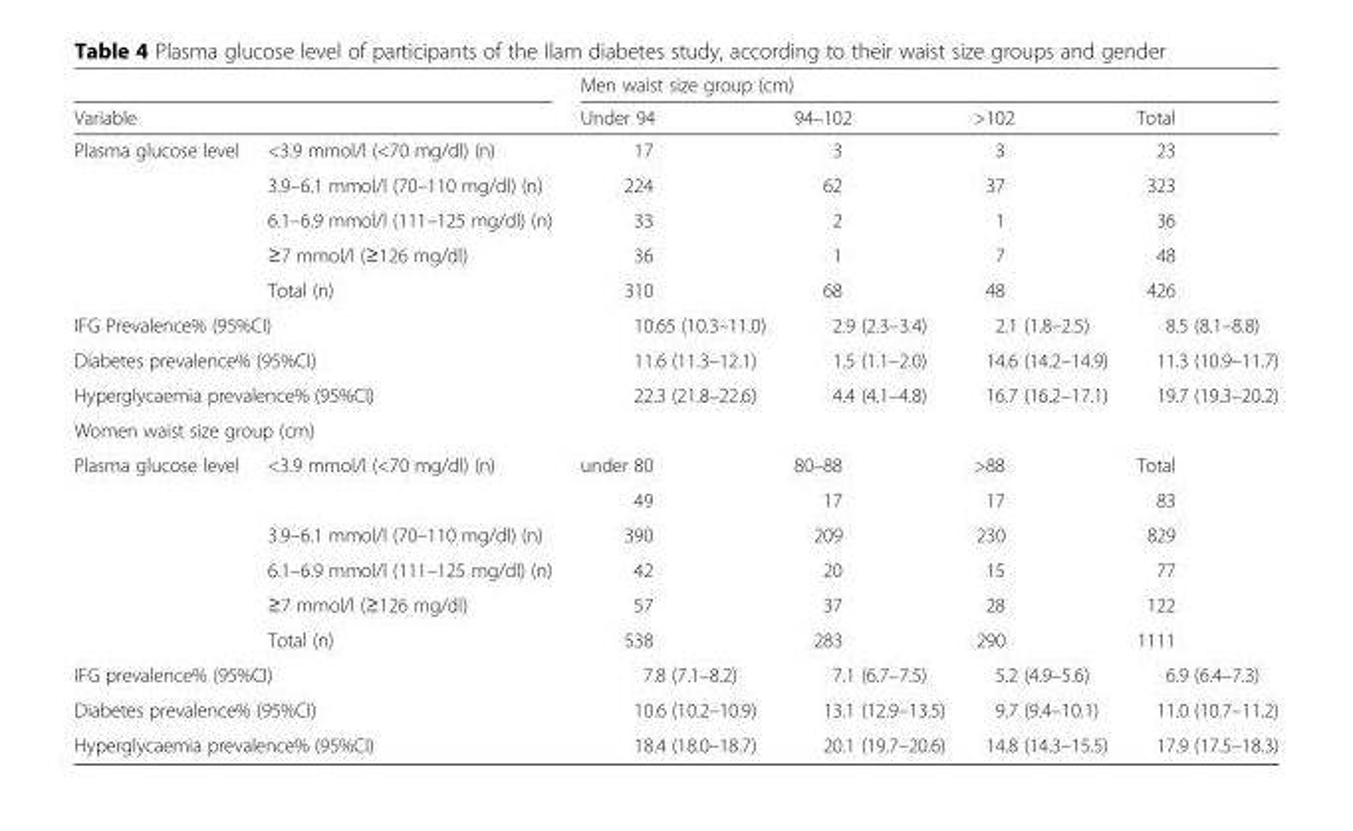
<table><thead><tr><td></td><td></td><td colspan="4">Men waist size group (cm)</td></tr><tr><td colspan="2">Variable</td><td>Under 94</td><td>94–102</td><td>&gt;102</td><td>Total</td></tr></thead><tbody><tr><td rowspan="5">Plasma glucose level</td><td>&lt;3.9 mmol/l (&lt;70 mg/dl) (n)</td><td>17</td><td>3</td><td>3</td><td>23</td></tr><tr><td>3.9–6.1 mmol/l (70–110 mg/dl) (n)</td><td>224</td><td>62</td><td>37</td><td>323</td></tr><tr><td>6.1–6.9 mmol/l (111–125 mg/dl) (n)</td><td>33</td><td>2</td><td>1</td><td>36</td></tr><tr><td>≥7 mmol/l (≥126 mg/dl)</td><td>36</td><td>1</td><td>7</td><td>48</td></tr><tr><td>Total (n)</td><td>310</td><td>68</td><td>48</td><td>426</td></tr><tr><td colspan="2">IFG Prevalence% (95%CI)</td><td>10.65 (10.3–11.0)</td><td>2.9 (2.3–3.4)</td><td>2.1 (1.8–2.5)</td><td>8.5 (8.1–8.8)</td></tr><tr><td colspan="2">Diabetes prevalence% (95%CI)</td><td>11.6 (11.3–12.1)</td><td>1.5 (1.1–2.0)</td><td>14.6 (14.2–14.9)</td><td>11.3 (10.9–11.7)</td></tr><tr><td colspan="2">Hyperglycaemia prevalence% (95%CI)</td><td>22.3 (21.8–22.6)</td><td>4.4 (4.1–4.8)</td><td>16.7 (16.2–17.1)</td><td>19.7 (19.3–20.2)</td></tr><tr><td colspan="6">Women waist size group (cm)</td></tr><tr><td rowspan="6">Plasma glucose level</td><td rowspan="2">&lt;3.9 mmol/l (&lt;70 mg/dl) (n)</td><td>under 80</td><td>80–88</td><td>&gt;88</td><td>Total</td></tr><tr><td>49</td><td>17</td><td>17</td><td>83</td></tr><tr><td>3.9–6.1 mmol/l (70–110 mg/dl) (n)</td><td>390</td><td>209</td><td>230</td><td>829</td></tr><tr><td>6.1–6.9 mmol/l (111–125 mg/dl) (n)</td><td>42</td><td>20</td><td>15</td><td>77</td></tr><tr><td>≥7 mmol/l (≥126 mg/dl)</td><td>57</td><td>37</td><td>28</td><td>122</td></tr><tr><td>Total (n)</td><td>538</td><td>283</td><td>290</td><td>1111</td></tr><tr><td colspan="2">IFG prevalence% (95%CI)</td><td>7.8 (7.1–8.2)</td><td>7.1 (6.7–7.5)</td><td>5.2 (4.9–5.6)</td><td>6.9 (6.4–7.3)</td></tr><tr><td colspan="2">Diabetes prevalence% (95%CI)</td><td>10.6 (10.2–10.9)</td><td>13.1 (12.9–13.5)</td><td>9.7 (9.4–10.1)</td><td>11.0 (10.7–11.2)</td></tr><tr><td colspan="2">Hyperglycaemia prevalence% (95%CI)</td><td>18.4 (18.0–18.7)</td><td>20.1 (19.7–20.6)</td><td>14.8 (14.3–15.5)</td><td>17.9 (17.5–18.3)</td></tr></tbody></table>